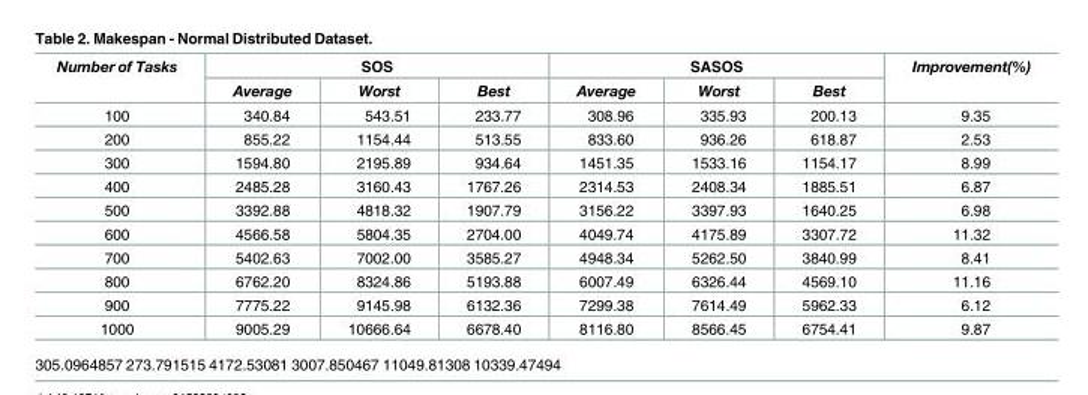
<table><thead><tr><td rowspan="2">Number of Tasks</td><td colspan="3">SOS</td><td colspan="3">SASOS</td><td rowspan="2">Improvement(%)</td></tr><tr><td>Average</td><td>Worst</td><td>Best</td><td>Average</td><td>Worst</td><td>Best</td></tr></thead><tbody><tr><td>100</td><td>340.84</td><td>543.51</td><td>233.77</td><td>308.96</td><td>335.93</td><td>200.13</td><td>9.35</td></tr><tr><td>200</td><td>855.22</td><td>1154.44</td><td>513.55</td><td>833.60</td><td>936.26</td><td>618.87</td><td>2.53</td></tr><tr><td>300</td><td>1594.80</td><td>2195.89</td><td>934.64</td><td>1451.35</td><td>1533.16</td><td>1154.17</td><td>8.99</td></tr><tr><td>400</td><td>2485.28</td><td>3160.43</td><td>1767.26</td><td>2314.53</td><td>2408.34</td><td>1885.51</td><td>6.87</td></tr><tr><td>500</td><td>3392.88</td><td>4818.32</td><td>1907.79</td><td>3156.22</td><td>3397.93</td><td>1640.25</td><td>6.98</td></tr><tr><td>600</td><td>4566.58</td><td>5804.35</td><td>2704.00</td><td>4049.74</td><td>4175.89</td><td>3307.72</td><td>11.32</td></tr><tr><td>700</td><td>5402.63</td><td>7002.00</td><td>3585.27</td><td>4948.34</td><td>5262.50</td><td>3840.99</td><td>8.41</td></tr><tr><td>800</td><td>6762.20</td><td>8324.86</td><td>5193.88</td><td>6007.49</td><td>6326.44</td><td>4569.10</td><td>11.16</td></tr><tr><td>900</td><td>7775.22</td><td>9145.98</td><td>6132.36</td><td>7299.38</td><td>7614.49</td><td>5962.33</td><td>6.12</td></tr><tr><td>1000</td><td>9005.29</td><td>10666.64</td><td>6678.40</td><td>8116.80</td><td>8566.45</td><td>6754.41</td><td>9.87</td></tr></tbody></table>